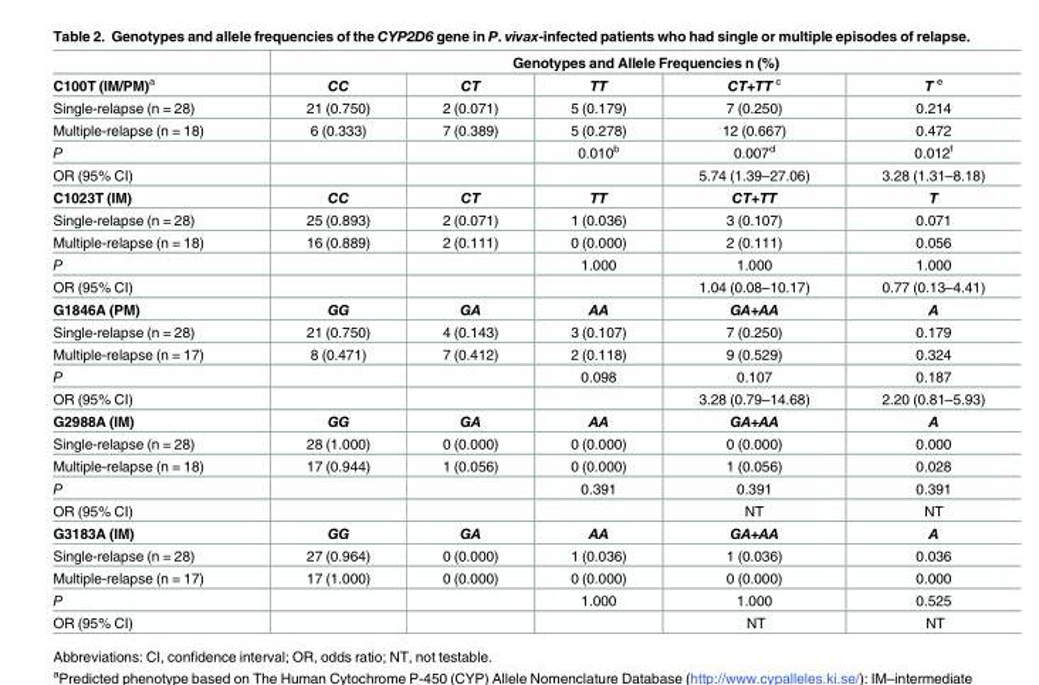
<table><thead><tr><td rowspan="2">C100T (IM/PM)<sup>a</sup></td><td colspan="5">Genotypes and Allele Frequencies n (%)</td></tr><tr><td>CC</td><td>CT</td><td>TT</td><td>CT+TT <sup>c</sup></td><td>T <sup>e</sup></td></tr></thead><tbody><tr><td>Single-relapse (n = 28)</td><td>21 (0.750)</td><td>2 (0.071)</td><td>5 (0.179)</td><td>7 (0.250)</td><td>0.214</td></tr><tr><td>Multiple-relapse (n = 18)</td><td>6 (0.333)</td><td>7 (0.389)</td><td>5 (0.278)</td><td>12 (0.667)</td><td>0.472</td></tr><tr><td>P</td><td></td><td></td><td>0.010<sup>b</sup></td><td>0.007<sup>d</sup></td><td>0.012<sup>f</sup></td></tr><tr><td>OR (95% CI)</td><td></td><td></td><td></td><td>5.74 (1.39–27.06)</td><td>3.28 (1.31–8.18)</td></tr><tr><td>C1023T (IM)</td><td>CC</td><td>CT</td><td>TT</td><td>CT+TT</td><td>T</td></tr><tr><td>Single-relapse (n = 28)</td><td>25 (0.893)</td><td>2 (0.071)</td><td>1 (0.036)</td><td>3 (0.107)</td><td>0.071</td></tr><tr><td>Multiple-relapse (n = 18)</td><td>16 (0.889)</td><td>2 (0.111)</td><td>0 (0.000)</td><td>2 (0.111)</td><td>0.056</td></tr><tr><td>P</td><td></td><td></td><td>1.000</td><td>1.000</td><td>1.000</td></tr><tr><td>OR (95% CI)</td><td></td><td></td><td></td><td>1.04 (0.08–10.17)</td><td>0.77 (0.13–4.41)</td></tr><tr><td>G1846A (PM)</td><td>GG</td><td>GA</td><td>AA</td><td>GA+AA</td><td>A</td></tr><tr><td>Single-relapse (n = 28)</td><td>21 (0.750)</td><td>4 (0.143)</td><td>3 (0.107)</td><td>7 (0.250)</td><td>0.179</td></tr><tr><td>Multiple-relapse (n = 17)</td><td>8 (0.471)</td><td>7 (0.412)</td><td>2 (0.118)</td><td>9 (0.529)</td><td>0.324</td></tr><tr><td>P</td><td></td><td></td><td>0.098</td><td>0.107</td><td>0.187</td></tr><tr><td>OR (95% CI)</td><td></td><td></td><td></td><td>3.28 (0.79–14.68)</td><td>2.20 (0.81–5.93)</td></tr><tr><td>G2988A (IM)</td><td>GG</td><td>GA</td><td>AA</td><td>GA+AA</td><td>A</td></tr><tr><td>Single-relapse (n = 28)</td><td>28 (1.000)</td><td>0 (0.000)</td><td>0 (0.000)</td><td>0 (0.000)</td><td>0.000</td></tr><tr><td>Multiple-relapse (n = 18)</td><td>17 (0.944)</td><td>1 (0.056)</td><td>0 (0.000)</td><td>1 (0.056)</td><td>0.028</td></tr><tr><td>P</td><td></td><td></td><td>0.391</td><td>0.391</td><td>0.391</td></tr><tr><td>OR (95% CI)</td><td></td><td></td><td></td><td>NT</td><td>NT</td></tr><tr><td>G3183A (IM)</td><td>GG</td><td>GA</td><td>AA</td><td>GA+AA</td><td>A</td></tr><tr><td>Single-relapse (n = 28)</td><td>27 (0.964)</td><td>0 (0.000)</td><td>1 (0.036)</td><td>1 (0.036)</td><td>0.036</td></tr><tr><td>Multiple-relapse (n = 17)</td><td>17 (1.000)</td><td>0 (0.000)</td><td>0 (0.000)</td><td>0 (0.000)</td><td>0.000</td></tr><tr><td>P</td><td></td><td></td><td>1.000</td><td>1.000</td><td>0.525</td></tr><tr><td>OR (95% CI)</td><td></td><td></td><td></td><td>NT</td><td>NT</td></tr></tbody></table>